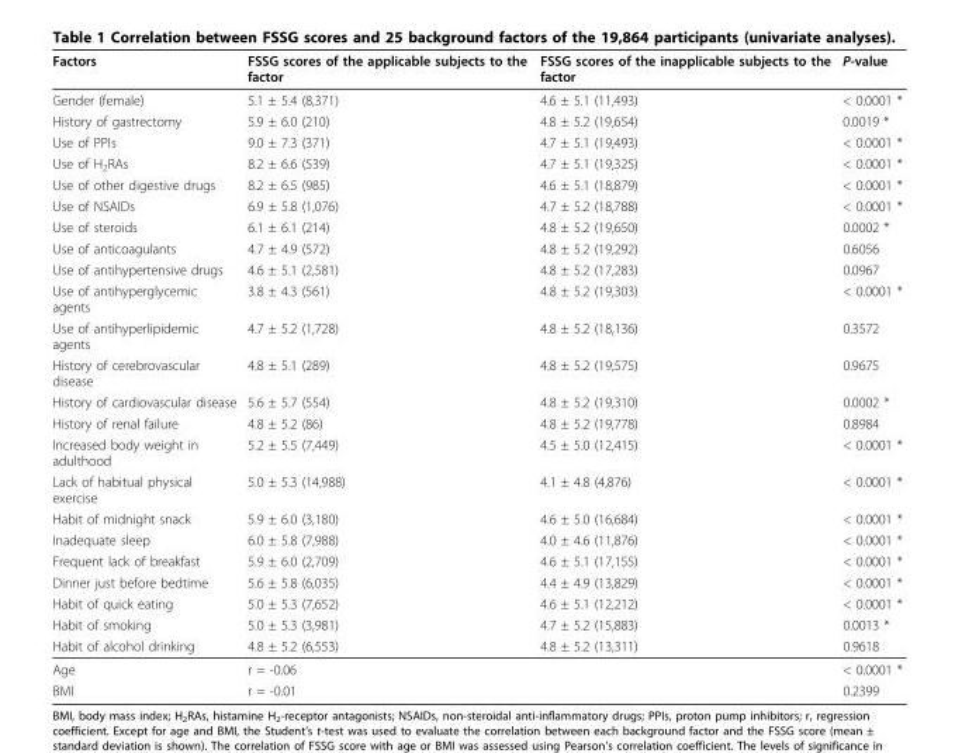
<table><thead><tr><td>Factors</td><td>FSSG scores of the applicable subjects to the factor</td><td>FSSG scores of the inapplicable subjects to the factor</td><td>P-value</td></tr></thead><tbody><tr><td>Gender (female)</td><td>5.1 ± 5.4 (8,371)</td><td>4.6 ± 5.1 (11,493)</td><td>&lt; 0.0001 *</td></tr><tr><td>History of gastrectomy</td><td>5.9 ± 6.0 (210)</td><td>4.8 ± 5.2 (19,654)</td><td>0.0019 *</td></tr><tr><td>Use of PPIs</td><td>9.0 ± 7.3 (371)</td><td>4.7 ± 5.1 (19,493)</td><td>&lt; 0.0001 *</td></tr><tr><td>Use of H<sub>2</sub>RAs</td><td>8.2 ± 6.6 (539)</td><td>4.7 ± 5.1 (19,325)</td><td>&lt; 0.0001 *</td></tr><tr><td>Use of other digestive drugs</td><td>8.2 ± 6.5 (985)</td><td>4.6 ± 5.1 (18,879)</td><td>&lt; 0.0001 *</td></tr><tr><td>Use of NSAIDs</td><td>6.9 ± 5.8 (1,076)</td><td>4.7 ± 5.2 (18,788)</td><td>&lt; 0.0001 *</td></tr><tr><td>Use of steroids</td><td>6.1 ± 6.1 (214)</td><td>4.8 ± 5.2 (19,650)</td><td>0.0002 *</td></tr><tr><td>Use of anticoagulants</td><td>4.7 ± 4.9 (572)</td><td>4.8 ± 5.2 (19,292)</td><td>0.6056</td></tr><tr><td>Use of antihypertensive drugs</td><td>4.6 ± 5.1 (2,581)</td><td>4.8 ± 5.2 (17,283)</td><td>0.0967</td></tr><tr><td>Use of antihyperglycemic agents</td><td>3.8 ± 4.3 (561)</td><td>4.8 ± 5.2 (19,303)</td><td>&lt; 0.0001 *</td></tr><tr><td>Use of antihyperlipidemic agents</td><td>4.7 ± 5.2 (1,728)</td><td>4.8 ± 5.2 (18,136)</td><td>0.3572</td></tr><tr><td>History of cerebrovascular disease</td><td>4.8 ± 5.1 (289)</td><td>4.8 ± 5.2 (19,575)</td><td>0.9675</td></tr><tr><td>History of cardiovascular disease</td><td>5.6 ± 5.7 (554)</td><td>4.8 ± 5.2 (19,310)</td><td>0.0002 *</td></tr><tr><td>History of renal failure</td><td>4.8 ± 5.2 (86)</td><td>4.8 ± 5.2 (19,778)</td><td>0.8984</td></tr><tr><td>Increased body weight in adulthood</td><td>5.2 ± 5.5 (7,449)</td><td>4.5 ± 5.0 (12,415)</td><td>&lt; 0.0001 *</td></tr><tr><td>Lack of habitual physical exercise</td><td>5.0 ± 5.3 (14,988)</td><td>4.1 ± 4.8 (4,876)</td><td>&lt; 0.0001 *</td></tr><tr><td>Habit of midnight snack</td><td>5.9 ± 6.0 (3,180)</td><td>4.6 ± 5.0 (16,684)</td><td>&lt; 0.0001 *</td></tr><tr><td>Inadequate sleep</td><td>6.0 ± 5.8 (7,988)</td><td>4.0 ± 4.6 (11,876)</td><td>&lt; 0.0001 *</td></tr><tr><td>Frequent lack of breakfast</td><td>5.9 ± 6.0 (2,709)</td><td>4.6 ± 5.1 (17,155)</td><td>&lt; 0.0001 *</td></tr><tr><td>Dinner just before bedtime</td><td>5.6 ± 5.8 (6,035)</td><td>4.4 ± 4.9 (13,829)</td><td>&lt; 0.0001 *</td></tr><tr><td>Habit of quick eating</td><td>5.0 ± 5.3 (7,652)</td><td>4.6 ± 5.1 (12,212)</td><td>&lt; 0.0001 *</td></tr><tr><td>Habit of smoking</td><td>5.0 ± 5.3 (3,981)</td><td>4.7 ± 5.2 (15,883)</td><td>0.0013 *</td></tr><tr><td>Habit of alcohol drinking</td><td>4.8 ± 5.2 (6,553)</td><td>4.8 ± 5.2 (13,311)</td><td>0.9618</td></tr><tr><td>Age</td><td colspan="2">r = -0.06</td><td>&lt; 0.0001 *</td></tr><tr><td>BMI</td><td colspan="2">r = -0.01</td><td>0.2399</td></tr></tbody></table>